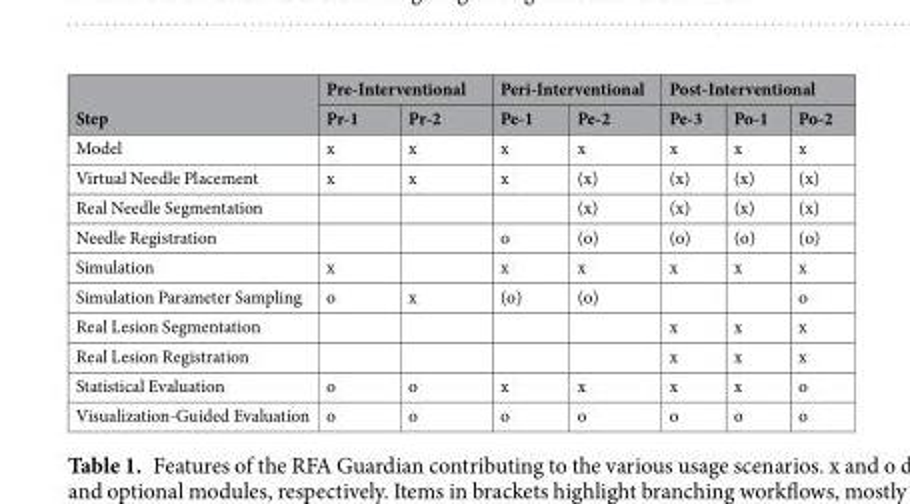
<table><thead><tr><td rowspan="2">Step</td><td colspan="2">Pre-Interventional</td><td colspan="2">Peri-Interventional</td><td colspan="3">Post-Interventional</td></tr><tr><td>Pr-1</td><td>Pr-2</td><td>Pe-1</td><td>Pe-2</td><td>Pe-3</td><td>Po-1</td><td>Po-2</td></tr></thead><tbody><tr><td>Model</td><td>x</td><td>x</td><td>x</td><td>x</td><td>x</td><td>x</td><td>x</td></tr><tr><td>Virtual Needle Placement</td><td>x</td><td>x</td><td>x</td><td>(x)</td><td>(x)</td><td>(x)</td><td>(x)</td></tr><tr><td>Real Needle Segmentation</td><td></td><td></td><td></td><td>(x)</td><td>(x)</td><td>(x)</td><td>(x)</td></tr><tr><td>Needle Registration</td><td></td><td></td><td>o</td><td>(o)</td><td>(o)</td><td>(o)</td><td>(o)</td></tr><tr><td>Simulation</td><td>x</td><td></td><td>x</td><td>x</td><td>x</td><td>x</td><td>x</td></tr><tr><td>Simulation Parameter Sampling</td><td>o</td><td>x</td><td>(o)</td><td>(o)</td><td></td><td></td><td>o</td></tr><tr><td>Real Lesion Segmentation</td><td></td><td></td><td></td><td></td><td>x</td><td>x</td><td>x</td></tr><tr><td>Real Lesion Registration</td><td></td><td></td><td></td><td></td><td>x</td><td>x</td><td>x</td></tr><tr><td>Statistical Evaluation</td><td>o</td><td>o</td><td>x</td><td>x</td><td>x</td><td>x</td><td>o</td></tr><tr><td>Visualization-Guided Evaluation</td><td>o</td><td>o</td><td>o</td><td>o</td><td>o</td><td>o</td><td>o</td></tr></tbody></table>